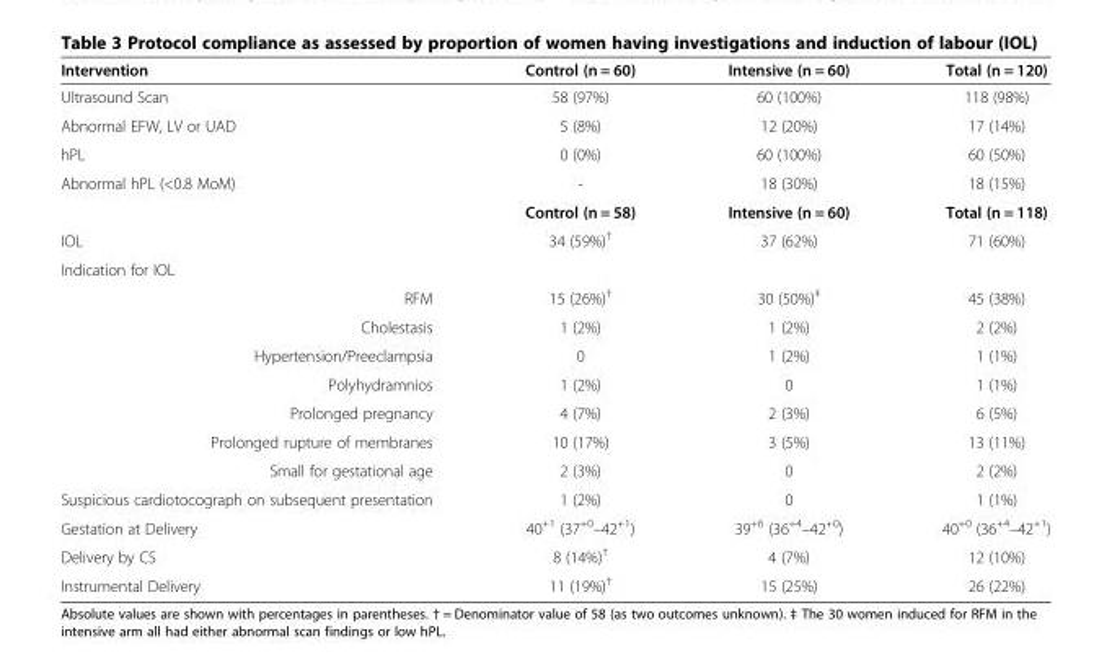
<table><thead><tr><td>Intervention</td><td>Control (n = 60)</td><td>Intensive (n = 60)</td><td>Total (n = 120)</td></tr></thead><tbody><tr><td>Ultrasound Scan</td><td>58 (97%)</td><td>60 (100%)</td><td>118 (98%)</td></tr><tr><td>Abnormal EFW, LV or UAD</td><td>5 (8%)</td><td>12 (20%)</td><td>17 (14%)</td></tr><tr><td>hPL</td><td>0 (0%)</td><td>60 (100%)</td><td>60 (50%)</td></tr><tr><td rowspan="2">Abnormal hPL (&lt;0.8 MoM)</td><td>-</td><td>18 (30%)</td><td>18 (15%)</td></tr><tr><td>Control (n = 58)</td><td>Intensive (n = 60)</td><td>Total (n = 118)</td></tr><tr><td>IOL</td><td>34 (59%)<sup>†</sup></td><td>37 (62%)</td><td>71 (60%)</td></tr><tr><td colspan="4">Indication for IOL</td></tr><tr><td>RFM</td><td>15 (26%)<sup>†</sup></td><td>30 (50%)<sup>‡</sup></td><td>45 (38%)</td></tr><tr><td>Cholestasis</td><td>1 (2%)</td><td>1 (2%)</td><td>2 (2%)</td></tr><tr><td>Hypertension/Preeclampsia</td><td>0</td><td>1 (2%)</td><td>1 (1%)</td></tr><tr><td>Polyhydramnios</td><td>1 (2%)</td><td>0</td><td>1 (1%)</td></tr><tr><td>Prolonged pregnancy</td><td>4 (7%)</td><td>2 (3%)</td><td>6 (5%)</td></tr><tr><td>Prolonged rupture of membranes</td><td>10 (17%)</td><td>3 (5%)</td><td>13 (11%)</td></tr><tr><td>Small for gestational age</td><td>2 (3%)</td><td>0</td><td>2 (2%)</td></tr><tr><td>Suspicious cardiotocograph on subsequent presentation</td><td>1 (2%)</td><td>0</td><td>1 (1%)</td></tr><tr><td>Gestation at Delivery</td><td>40<sup>+1</sup> (37<sup>+0</sup>–42<sup>+1</sup>)</td><td>39<sup>+6</sup> (36<sup>+4</sup>–42<sup>+0</sup>)</td><td>40<sup>+0</sup> (36<sup>+4</sup>–42<sup>+1</sup>)</td></tr><tr><td>Delivery by CS</td><td>8 (14%)<sup>†</sup></td><td>4 (7%)</td><td>12 (10%)</td></tr><tr><td>Instrumental Delivery</td><td>11 (19%)<sup>†</sup></td><td>15 (25%)</td><td>26 (22%)</td></tr></tbody></table>